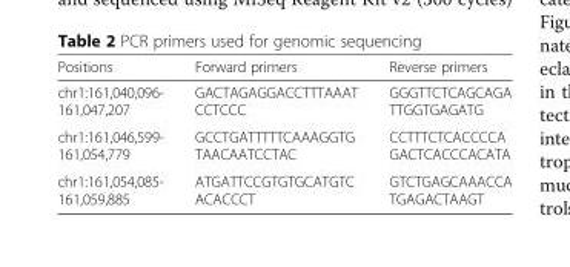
<table><thead><tr><td>Positions</td><td>Forward primers</td><td>Reverse primers</td></tr></thead><tbody><tr><td>chr1:161,040,096- 161,047,207</td><td>GACTAGAGGACCTTTAAAT CCTCCC</td><td>GGGTTCTCAGCAGA TTGGTGAGATG</td></tr><tr><td>chr1:161,046,599- 161,054,779</td><td>GCCTGATTTTTCAAAGGTG TAACAATCCTAC</td><td>CCTTTCTCACCCCA GACTCACCCACATA</td></tr><tr><td>chr1:161,054,085- 161,059,885</td><td>ATGATTCCGTGTGCATGTC ACACCCT</td><td>GTCTGAGCAAACCA TGAGACTAAGT</td></tr></tbody></table>